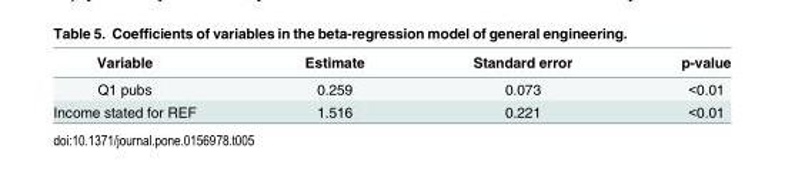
<table><thead><tr><td>Variable</td><td>Estimate</td><td>Standard error</td><td>p-value</td></tr></thead><tbody><tr><td>Q1 pubs</td><td>0.259</td><td>0.073</td><td>&lt;0.01</td></tr><tr><td>Income stated for REF</td><td>1.516</td><td>0.221</td><td>&lt;0.01</td></tr></tbody></table>